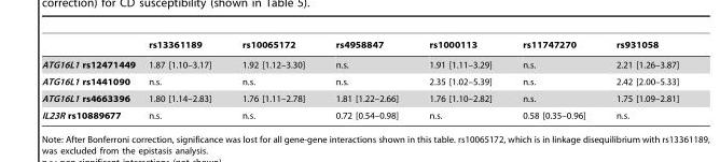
<table><thead><tr><td></td><td>rs13361189</td><td>rs10065172</td><td>rs4958847</td><td>rs1000113</td><td>rs11747270</td><td>rs931058</td></tr></thead><tbody><tr><td>ATG16L1 rs12471449</td><td>1.87 [1.10–3.17]</td><td>1.92 [1.12–3.30]</td><td>n.s.</td><td>1.91 [1.11–3.29]</td><td>n.s.</td><td>2.21 [1.26–3.87]</td></tr><tr><td>ATG16L1 rs1441090</td><td>n.s.</td><td>n.s.</td><td>n.s.</td><td>2.35 [1.02–5.39]</td><td>n.s.</td><td>2.42 [2.00–5.33]</td></tr><tr><td>ATG16L1 rs4663396</td><td>1.80 [1.14–2.83]</td><td>1.76 [1.11–2.78]</td><td>1.81 [1.22–2.66]</td><td>1.76 [1.10–2.82]</td><td>n.s.</td><td>1.75 [1.09–2.81]</td></tr><tr><td>IL23R rs10889677</td><td>n.s.</td><td>n.s.</td><td>0.72 [0.54–0.98]</td><td>n.s.</td><td>0.58 [0.35–0.96]</td><td>n.s.</td></tr></tbody></table>